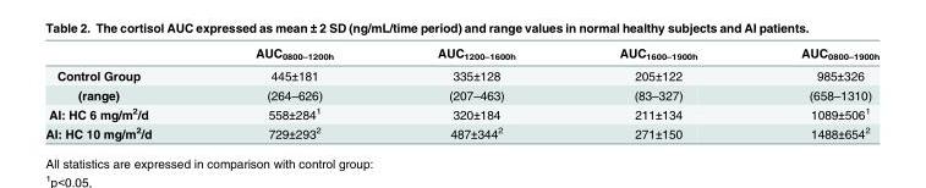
<table><thead><tr><td></td><td>AUC<sub>0800–1200h</sub></td><td>AUC<sub>1200–1600h</sub></td><td>AUC<sub>1600–1900h</sub></td><td>AUC<sub>0800–1900h</sub></td></tr></thead><tbody><tr><td>Control Group</td><td>445±181</td><td>335±128</td><td>205±122</td><td>985±326</td></tr><tr><td>(range)</td><td>(264–626)</td><td>(207–463)</td><td>(83–327)</td><td>(658–1310)</td></tr><tr><td>AI: HC 6 mg/m<sup>2</sup>/d</td><td>558±284<sup>1</sup></td><td>320±184</td><td>211±134</td><td>1089±506<sup>1</sup></td></tr><tr><td>AI: HC 10 mg/m<sup>2</sup>/d</td><td>729±293<sup>2</sup></td><td>487±344<sup>2</sup></td><td>271±150</td><td>1488±654<sup>2</sup></td></tr></tbody></table>